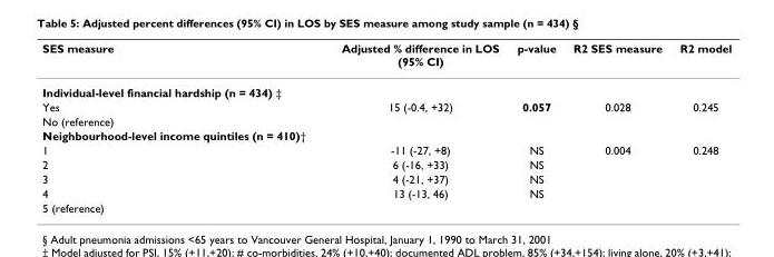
<table><thead><tr><td>SES measure</td><td>Adjusted % difference in LOS (95% CI)</td><td>p-value</td><td>R2 SES measure</td><td>R2 model</td></tr></thead><tbody><tr><td colspan="5">Individual-level financial hardship (n = 434) ‡</td></tr><tr><td>Yes</td><td>15 (-0.4, +32)</td><td>0.057</td><td>0.028</td><td>0.245</td></tr><tr><td colspan="5">No (reference)</td></tr><tr><td colspan="5">Neighbourhood-level income quintiles (n = 410)†</td></tr><tr><td>1</td><td>-11 (-27, +8)</td><td>NS</td><td>0.004</td><td>0.248</td></tr><tr><td>2</td><td>6 (-16, +33)</td><td>NS</td><td></td><td></td></tr><tr><td>3</td><td>4 (-21, +37)</td><td>NS</td><td></td><td></td></tr><tr><td>4</td><td>13 (-13, 46)</td><td>NS</td><td></td><td></td></tr><tr><td>5 (reference)</td><td></td><td></td><td></td><td></td></tr></tbody></table>